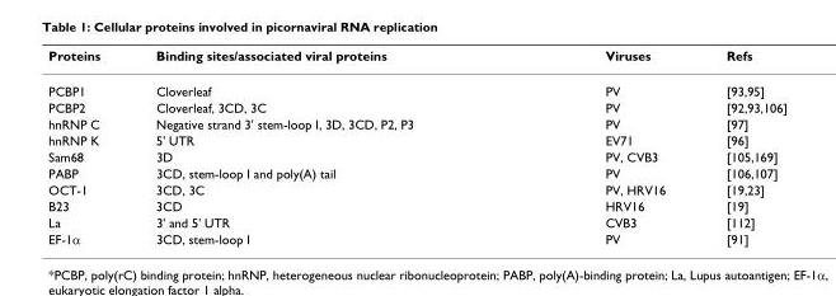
<table><thead><tr><td>Proteins</td><td>Binding sites/associated viral proteins</td><td>Viruses</td><td>Refs</td></tr></thead><tbody><tr><td>PCBP1</td><td>Cloverleaf</td><td>PV</td><td>[93,95]</td></tr><tr><td>PCBP2</td><td>Cloverleaf, 3CD, 3C</td><td>PV</td><td>[92,93,106]</td></tr><tr><td>hnRNP C</td><td>Negative strand 3&#x27; stem-loop I, 3D, 3CD, P2, P3</td><td>PV</td><td>[97]</td></tr><tr><td>hnRNP K</td><td>5&#x27; UTR</td><td>EV71</td><td>[96]</td></tr><tr><td>Sam68</td><td>3D</td><td>PV, CVB3</td><td>[105,169]</td></tr><tr><td>PABP</td><td>3CD, stem-loop I and poly(A) tail</td><td>PV</td><td>[106,107]</td></tr><tr><td>OCT-1</td><td>3CD, 3C</td><td>PV, HRV16</td><td>[19,23]</td></tr><tr><td>B23</td><td>3CD</td><td>HRV16</td><td>[19]</td></tr><tr><td>La</td><td>3&#x27; and 5&#x27; UTR</td><td>CVB3</td><td>[112]</td></tr><tr><td>EF-1α</td><td>3CD, stem-loop I</td><td>PV</td><td>[91]</td></tr></tbody></table>